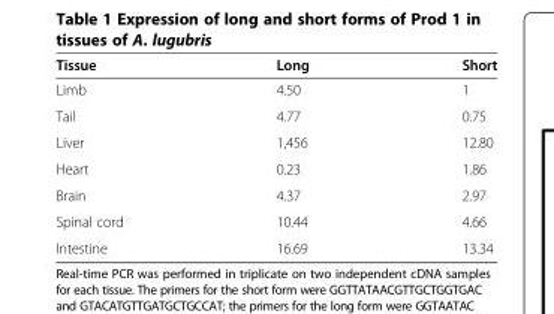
<table><thead><tr><td>Tissue</td><td>Long</td><td>Short</td></tr></thead><tbody><tr><td>Limb</td><td>4.50</td><td>1</td></tr><tr><td>Tail</td><td>4.77</td><td>0.75</td></tr><tr><td>Liver</td><td>1,456</td><td>12.80</td></tr><tr><td>Heart</td><td>0.23</td><td>1.86</td></tr><tr><td>Brain</td><td>4.37</td><td>2.97</td></tr><tr><td>Spinal cord</td><td>10.44</td><td>4.66</td></tr><tr><td>Intestine</td><td>16.69</td><td>13.34</td></tr></tbody></table>